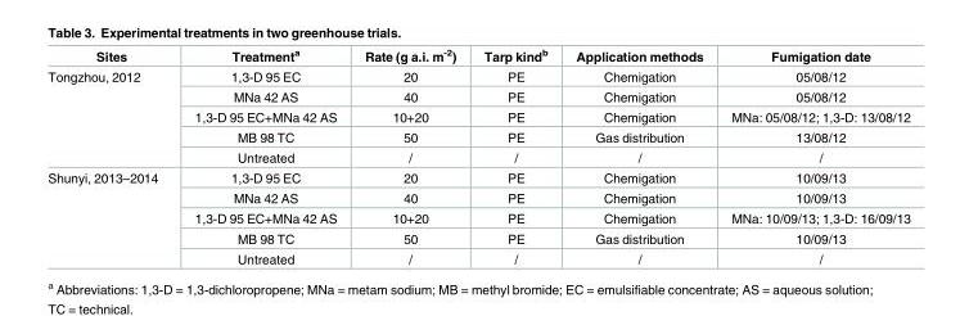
<table><thead><tr><td>Sites</td><td>Treatment<sup>a</sup></td><td>Rate (g a.i. m<sup>-2</sup>)</td><td>Tarp kind<sup>b</sup></td><td>Application methods</td><td>Fumigation date</td></tr></thead><tbody><tr><td rowspan="5">Tongzhou, 2012</td><td>1,3-D 95 EC</td><td>20</td><td>PE</td><td>Chemigation</td><td>05/08/12</td></tr><tr><td>MNa 42 AS</td><td>40</td><td>PE</td><td>Chemigation</td><td>05/08/12</td></tr><tr><td>1,3-D 95 EC+MNa 42 AS</td><td>10+20</td><td>PE</td><td>Chemigation</td><td>MNa: 05/08/12; 1,3-D: 13/08/12</td></tr><tr><td>MB 98 TC</td><td>50</td><td>PE</td><td>Gas distribution</td><td>13/08/12</td></tr><tr><td>Untreated</td><td>/</td><td>/</td><td>/</td><td>/</td></tr><tr><td rowspan="5">Shunyi, 2013–2014</td><td>1,3-D 95 EC</td><td>20</td><td>PE</td><td>Chemigation</td><td>10/09/13</td></tr><tr><td>MNa 42 AS</td><td>40</td><td>PE</td><td>Chemigation</td><td>10/09/13</td></tr><tr><td>1,3-D 95 EC+MNa 42 AS</td><td>10+20</td><td>PE</td><td>Chemigation</td><td>MNa: 10/09/13; 1,3-D: 16/09/13</td></tr><tr><td>MB 98 TC</td><td>50</td><td>PE</td><td>Gas distribution</td><td>10/09/13</td></tr><tr><td>Untreated</td><td>/</td><td>/</td><td>/</td><td>/</td></tr></tbody></table>